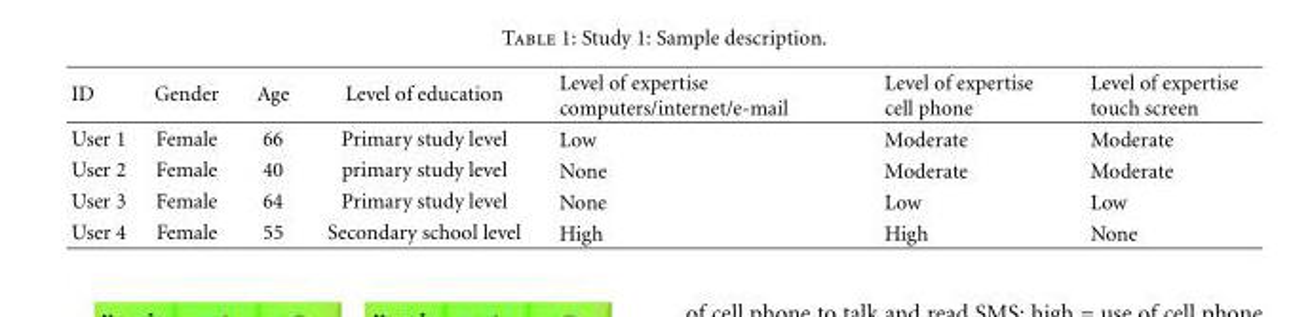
<table><thead><tr><td>ID</td><td>Gender</td><td>Age</td><td>Level of education</td><td>Level of expertise computers/internet/e-mail</td><td>Level of expertise cell phone</td><td>Level of expertise touch screen</td></tr></thead><tbody><tr><td>User 1</td><td>Female</td><td>66</td><td>Primary study level</td><td>Low</td><td>Moderate</td><td>Moderate</td></tr><tr><td>User 2</td><td>Female</td><td>40</td><td>primary study level</td><td>None</td><td>Moderate</td><td>Moderate</td></tr><tr><td>User 3</td><td>Female</td><td>64</td><td>Primary study level</td><td>None</td><td>Low</td><td>Low</td></tr><tr><td>User 4</td><td>Female</td><td>55</td><td>Secondary school level</td><td>High</td><td>High</td><td>None</td></tr></tbody></table>